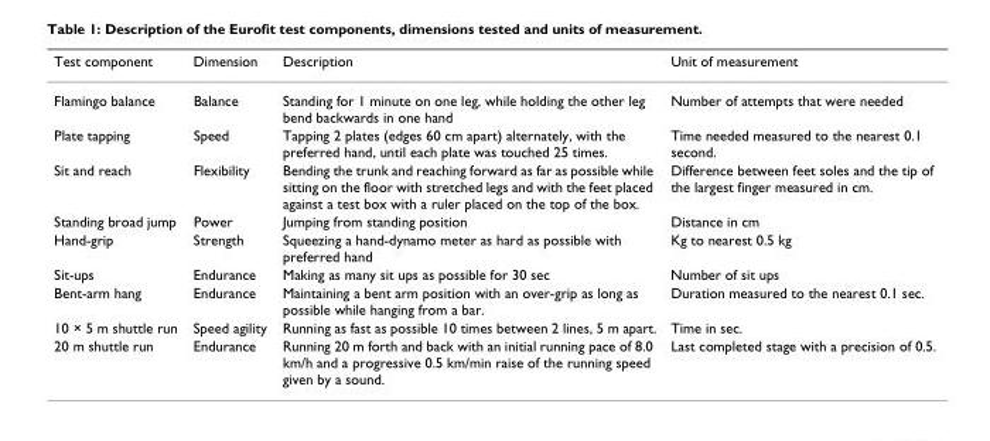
<table><thead><tr><td>Test component</td><td>Dimension</td><td>Description</td><td>Unit of measurement</td></tr></thead><tbody><tr><td>Flamingo balance</td><td>Balance</td><td>Standing for 1 minute on one leg, while holding the other leg bend backwards in one hand</td><td>Number of attempts that were needed</td></tr><tr><td>Plate tapping</td><td>Speed</td><td>Tapping 2 plates (edges 60 cm apart) alternately, with the preferred hand, until each plate was touched 25 times.</td><td>Time needed measured to the nearest 0.1 second.</td></tr><tr><td>Sit and reach</td><td>Flexibility</td><td>Bending the trunk and reaching forward as far as possible while sitting on the floor with stretched legs and with the feet placed against a test box with a ruler placed on the top of the box.</td><td>Difference between feet soles and the tip of the largest finger measured in cm.</td></tr><tr><td>Standing broad jump</td><td>Power</td><td>Jumping from standing position</td><td>Distance in cm</td></tr><tr><td>Hand-grip</td><td>Strength</td><td>Squeezing a hand-dynamo meter as hard as possible with preferred hand</td><td>Kg to nearest 0.5 kg</td></tr><tr><td>Sit-ups</td><td>Endurance</td><td>Making as many sit ups as possible for 30 sec</td><td>Number of sit ups</td></tr><tr><td>Bent-arm hang</td><td>Endurance</td><td>Maintaining a bent arm position with an over-grip as long as possible while hanging from a bar.</td><td>Duration measured to the nearest 0.1 sec.</td></tr><tr><td>10 × 5 m shuttle run</td><td>Speed agility</td><td>Running as fast as possible 10 times between 2 lines, 5 m apart.</td><td>Time in sec.</td></tr><tr><td>20 m shuttle run</td><td>Endurance</td><td>Running 20 m forth and back with an initial running pace of 8.0 km/h and a progressive 0.5 km/min raise of the running speed given by a sound.</td><td>Last completed stage with a precision of 0.5.</td></tr></tbody></table>